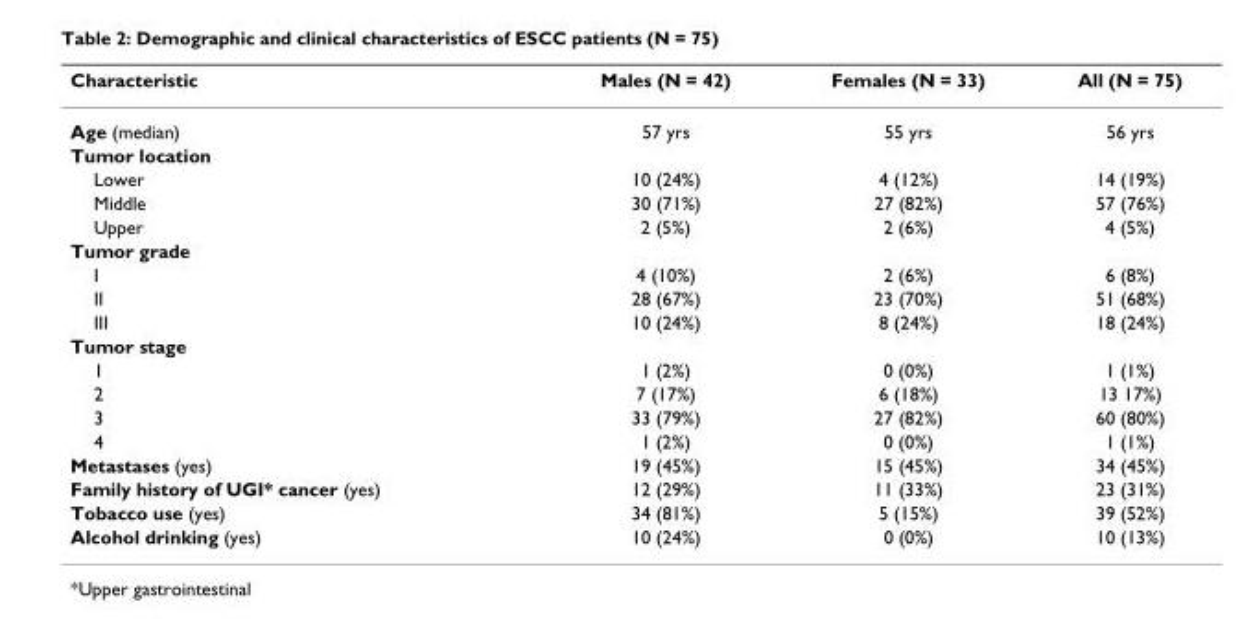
<table><thead><tr><td>Characteristic</td><td>Males (N = 42)</td><td>Females (N = 33)</td><td>All (N = 75)</td></tr></thead><tbody><tr><td>Age (median)</td><td>57 yrs</td><td>55 yrs</td><td>56 yrs</td></tr><tr><td colspan="4">Tumor location</td></tr><tr><td>Lower</td><td>10 (24%)</td><td>4 (12%)</td><td>14 (19%)</td></tr><tr><td>Middle</td><td>30 (71%)</td><td>27 (82%)</td><td>57 (76%)</td></tr><tr><td>Upper</td><td>2 (5%)</td><td>2 (6%)</td><td>4 (5%)</td></tr><tr><td colspan="4">Tumor grade</td></tr><tr><td>I</td><td>4 (10%)</td><td>2 (6%)</td><td>6 (8%)</td></tr><tr><td>II</td><td>28 (67%)</td><td>23 (70%)</td><td>51 (68%)</td></tr><tr><td>III</td><td>10 (24%)</td><td>8 (24%)</td><td>18 (24%)</td></tr><tr><td colspan="4">Tumor stage</td></tr><tr><td>1</td><td>1 (2%)</td><td>0 (0%)</td><td>1 (1%)</td></tr><tr><td>2</td><td>7 (17%)</td><td>6 (18%)</td><td>13 17%)</td></tr><tr><td>3</td><td>33 (79%)</td><td>27 (82%)</td><td>60 (80%)</td></tr><tr><td>4</td><td>1 (2%)</td><td>0 (0%)</td><td>1 (1%)</td></tr><tr><td>Metastases (yes)</td><td>19 (45%)</td><td>15 (45%)</td><td>34 (45%)</td></tr><tr><td>Family history of UGI* cancer (yes)</td><td>12 (29%)</td><td>11 (33%)</td><td>23 (31%)</td></tr><tr><td>Tobacco use (yes)</td><td>34 (81%)</td><td>5 (15%)</td><td>39 (52%)</td></tr><tr><td>Alcohol drinking (yes)</td><td>10 (24%)</td><td>0 (0%)</td><td>10 (13%)</td></tr></tbody></table>